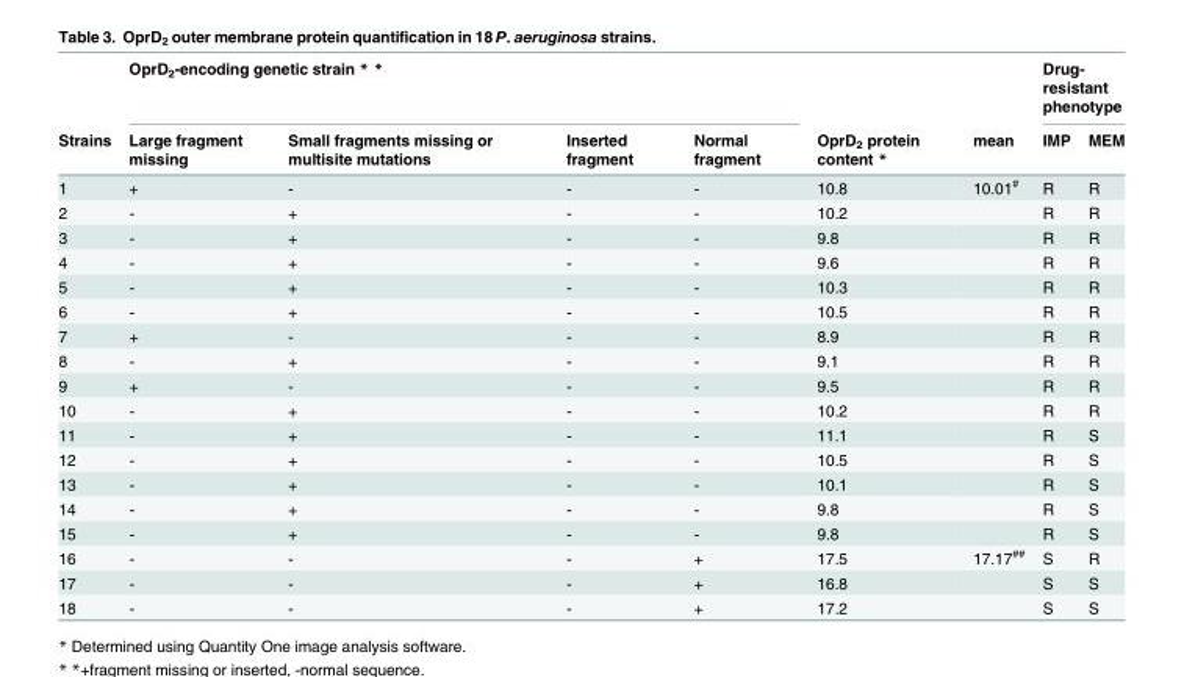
<table><thead><tr><td rowspan="2">Strains</td><td colspan="4">OprD<sub>2</sub>-encoding genetic strain * *</td><td rowspan="2">OprD<sub>2</sub> protein content *</td><td rowspan="2">mean</td><td colspan="2">Drug- resistant phenotype</td></tr><tr><td>Large fragment missing</td><td>Small fragments missing or multisite mutations</td><td>Inserted fragment</td><td>Normal fragment</td><td>IMP</td><td>MEM</td></tr></thead><tbody><tr><td>1</td><td>+</td><td>-</td><td>-</td><td>-</td><td>10.8</td><td>10.01<sup>#</sup></td><td>R</td><td>R</td></tr><tr><td>2</td><td>-</td><td>+</td><td>-</td><td>-</td><td>10.2</td><td></td><td>R</td><td>R</td></tr><tr><td>3</td><td>-</td><td>+</td><td>-</td><td>-</td><td>9.8</td><td></td><td>R</td><td>R</td></tr><tr><td>4</td><td>-</td><td>+</td><td>-</td><td>-</td><td>9.6</td><td></td><td>R</td><td>R</td></tr><tr><td>5</td><td>-</td><td>+</td><td>-</td><td>-</td><td>10.3</td><td></td><td>R</td><td>R</td></tr><tr><td>6</td><td>-</td><td>+</td><td>-</td><td>-</td><td>10.5</td><td></td><td>R</td><td>R</td></tr><tr><td>7</td><td>+</td><td>-</td><td>-</td><td>-</td><td>8.9</td><td></td><td>R</td><td>R</td></tr><tr><td>8</td><td>-</td><td>+</td><td>-</td><td>-</td><td>9.1</td><td></td><td>R</td><td>R</td></tr><tr><td>9</td><td>+</td><td>-</td><td>-</td><td>-</td><td>9.5</td><td></td><td>R</td><td>R</td></tr><tr><td>10</td><td>-</td><td>+</td><td>-</td><td>-</td><td>10.2</td><td></td><td>R</td><td>R</td></tr><tr><td>11</td><td>-</td><td>+</td><td>-</td><td>-</td><td>11.1</td><td></td><td>R</td><td>S</td></tr><tr><td>12</td><td>-</td><td>+</td><td>-</td><td>-</td><td>10.5</td><td></td><td>R</td><td>S</td></tr><tr><td>13</td><td>-</td><td>+</td><td>-</td><td>-</td><td>10.1</td><td></td><td>R</td><td>S</td></tr><tr><td>14</td><td>-</td><td>+</td><td>-</td><td>-</td><td>9.8</td><td></td><td>R</td><td>S</td></tr><tr><td>15</td><td>-</td><td>+</td><td>-</td><td>-</td><td>9.8</td><td></td><td>R</td><td>S</td></tr><tr><td>16</td><td>-</td><td>-</td><td>-</td><td>+</td><td>17.5</td><td>17.17<sup>##</sup></td><td>S</td><td>R</td></tr><tr><td>17</td><td>-</td><td>-</td><td>-</td><td>+</td><td>16.8</td><td></td><td>S</td><td>S</td></tr><tr><td>18</td><td>-</td><td>-</td><td>-</td><td>+</td><td>17.2</td><td></td><td>S</td><td>S</td></tr></tbody></table>